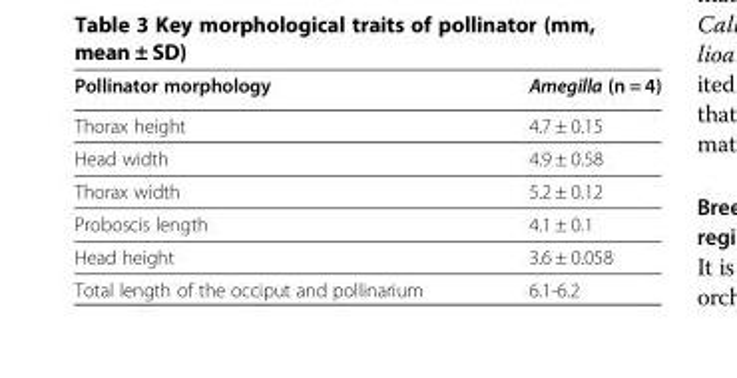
<table><thead><tr><td>Pollinator morphology</td><td>Amegilla (n = 4)</td></tr></thead><tbody><tr><td>Thorax height</td><td>4.7 ± 0.15</td></tr><tr><td>Head width</td><td>4.9 ± 0.58</td></tr><tr><td>Thorax width</td><td>5.2 ± 0.12</td></tr><tr><td>Proboscis length</td><td>4.1 ± 0.1</td></tr><tr><td>Head height</td><td>3.6 ± 0.058</td></tr><tr><td>Total length of the occiput and pollinarium</td><td>6.1-6.2</td></tr></tbody></table>